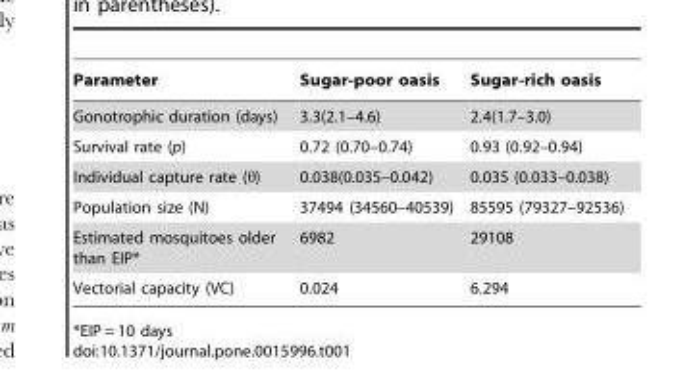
<table><thead><tr><td>Parameter</td><td>Sugar-poor oasis</td><td>Sugar-rich oasis</td></tr></thead><tbody><tr><td>Gonotrophic duration (days)</td><td>3.3(2.1–4.6)</td><td>2.4(1.7–3.0)</td></tr><tr><td>Survival rate (p)</td><td>0.72 (0.70–0.74)</td><td>0.93 (0.92–0.94)</td></tr><tr><td>Individual capture rate (θ)</td><td>0.038(0.035–0.042)</td><td>0.035 (0.033–0.038)</td></tr><tr><td>Population size (N)</td><td>37494 (34560–40539)</td><td>85595 (79327–92536)</td></tr><tr><td>Estimated mosquitoes older than EIP*</td><td>6982</td><td>29108</td></tr><tr><td>Vectorial capacity (VC)</td><td>0.024</td><td>6.294</td></tr></tbody></table>